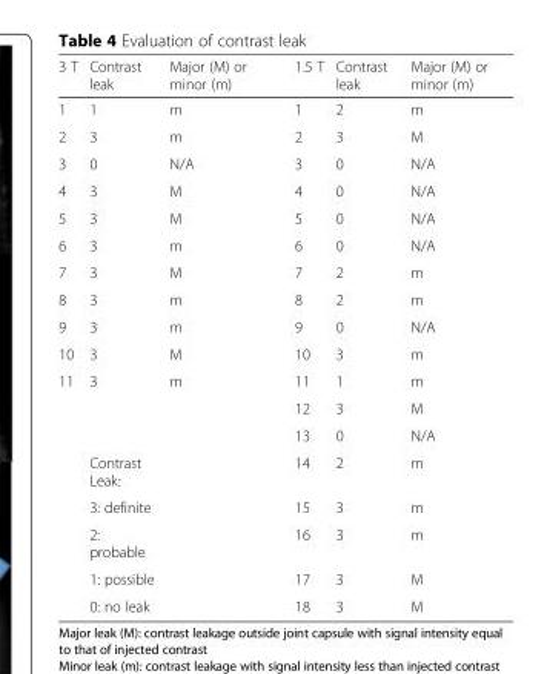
<table><thead><tr><td>3 T</td><td>Contrast leak</td><td>Major (M) or minor (m)</td><td>1.5 T</td><td>Contrast leak</td><td>Major (M) or minor (m)</td></tr></thead><tbody><tr><td>1</td><td>1</td><td>m</td><td>1</td><td>2</td><td>m</td></tr><tr><td>2</td><td>3</td><td>m</td><td>2</td><td>3</td><td>M</td></tr><tr><td>3</td><td>0</td><td>N/A</td><td>3</td><td>0</td><td>N/A</td></tr><tr><td>4</td><td>3</td><td>M</td><td>4</td><td>0</td><td>N/A</td></tr><tr><td>5</td><td>3</td><td>M</td><td>5</td><td>0</td><td>N/A</td></tr><tr><td>6</td><td>3</td><td>m</td><td>6</td><td>0</td><td>N/A</td></tr><tr><td>7</td><td>3</td><td>M</td><td>7</td><td>2</td><td>m</td></tr><tr><td>8</td><td>3</td><td>m</td><td>8</td><td>2</td><td>m</td></tr><tr><td>9</td><td>3</td><td>m</td><td>9</td><td>0</td><td>N/A</td></tr><tr><td>10</td><td>3</td><td>M</td><td>10</td><td>3</td><td>m</td></tr><tr><td rowspan="8">11</td><td>3</td><td>m</td><td>11</td><td>1</td><td>m</td></tr><tr><td></td><td></td><td>12</td><td>3</td><td>M</td></tr><tr><td></td><td></td><td>13</td><td>0</td><td>N/A</td></tr><tr><td>Contrast Leak:</td><td></td><td>14</td><td>2</td><td>m</td></tr><tr><td>3: definite</td><td></td><td>15</td><td>3</td><td>m</td></tr><tr><td>2: probable</td><td></td><td>16</td><td>3</td><td>m</td></tr><tr><td>1: possible</td><td></td><td>17</td><td>3</td><td>M</td></tr><tr><td>0: no leak</td><td></td><td>18</td><td>3</td><td>M</td></tr></tbody></table>